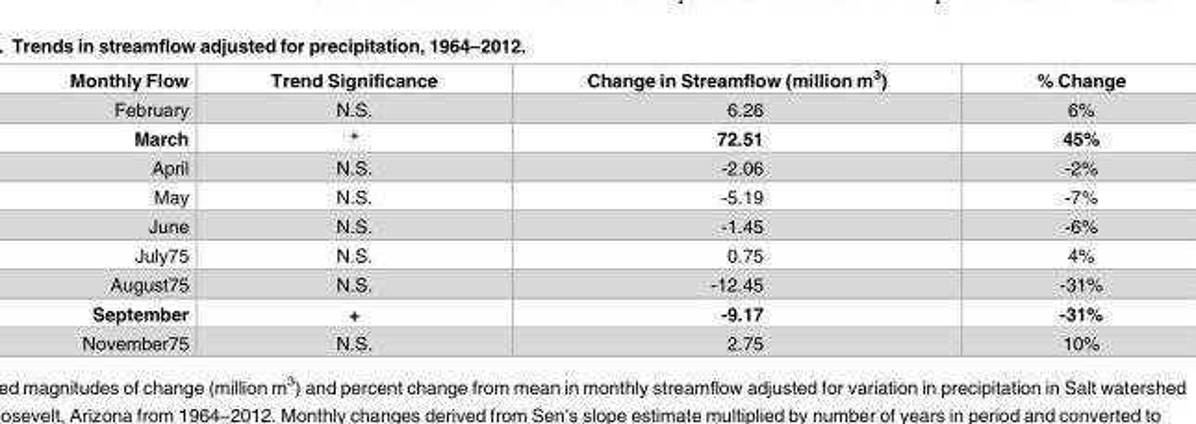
<table><thead><tr><td>Monthly Flow</td><td>Trend Significance</td><td>Change in Streamflow (million m<sup>3</sup>)</td><td>% Change</td></tr></thead><tbody><tr><td>February</td><td>N.S.</td><td>6.26</td><td>6%</td></tr><tr><td>March</td><td>*</td><td>72.51</td><td>45%</td></tr><tr><td>April</td><td>N.S.</td><td>-2.06</td><td>-2%</td></tr><tr><td>May</td><td>N.S.</td><td>-5.19</td><td>-7%</td></tr><tr><td>June</td><td>N.S.</td><td>-1.45</td><td>-6%</td></tr><tr><td>July75</td><td>N.S.</td><td>0.75</td><td>4%</td></tr><tr><td>August75</td><td>N.S.</td><td>-12.45</td><td>-31%</td></tr><tr><td>September</td><td>+</td><td>-9.17</td><td>-31%</td></tr><tr><td>November75</td><td>N.S.</td><td>2.75</td><td>10%</td></tr></tbody></table>